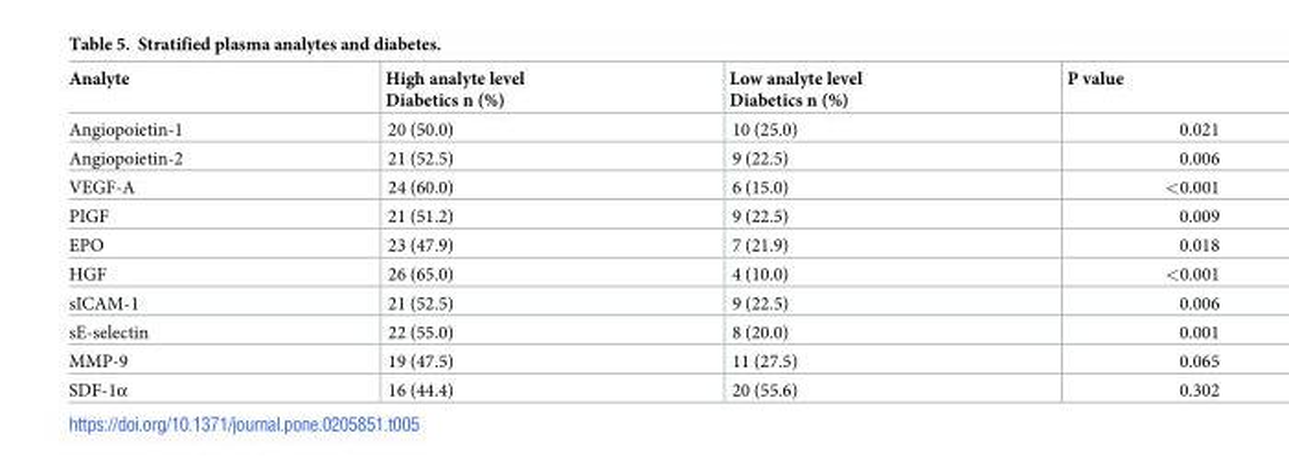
<table><thead><tr><td>Analyte</td><td>High analyte level Diabetics n (%)</td><td>Low analyte level Diabetics n (%)</td><td>P value</td></tr></thead><tbody><tr><td>Angiopoietin-1</td><td>20 (50.0)</td><td>10 (25.0)</td><td>0.021</td></tr><tr><td>Angiopoietin-2</td><td>21 (52.5)</td><td>9 (22.5)</td><td>0.006</td></tr><tr><td>VEGF-A</td><td>24 (60.0)</td><td>6 (15.0)</td><td>&lt;0.001</td></tr><tr><td>PIGF</td><td>21 (51.2)</td><td>9 (22.5)</td><td>0.009</td></tr><tr><td>EPO</td><td>23 (47.9)</td><td>7 (21.9)</td><td>0.018</td></tr><tr><td>HGF</td><td>26 (65.0)</td><td>4 (10.0)</td><td>&lt;0.001</td></tr><tr><td>sICAM-1</td><td>21 (52.5)</td><td>9 (22.5)</td><td>0.006</td></tr><tr><td>sE-selectin</td><td>22 (55.0)</td><td>8 (20.0)</td><td>0.001</td></tr><tr><td>MMP-9</td><td>19 (47.5)</td><td>11 (27.5)</td><td>0.065</td></tr><tr><td>SDF-1α</td><td>16 (44.4)</td><td>20 (55.6)</td><td>0.302</td></tr></tbody></table>